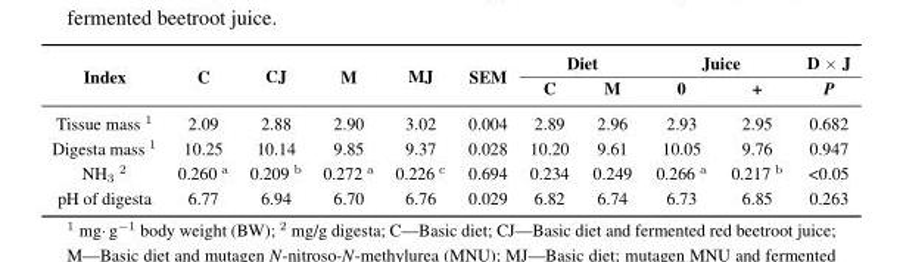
<table><thead><tr><td rowspan="2">Index</td><td rowspan="2">C</td><td rowspan="2">CJ</td><td rowspan="2">M</td><td rowspan="2">MJ</td><td rowspan="2">SEM</td><td colspan="2">Diet</td><td colspan="2">Juice</td><td rowspan="2">D ˆ J P</td></tr><tr><td>C</td><td>M</td><td>0</td><td>+</td></tr></thead><tbody><tr><td>Tissue mass <sup>1</sup></td><td>2.09</td><td>2.88</td><td>2.90</td><td>3.02</td><td>0.004</td><td>2.89</td><td>2.96</td><td>2.93</td><td>2.95</td><td>0.682</td></tr><tr><td>Digesta mass <sup>1</sup></td><td>10.25</td><td>10.14</td><td>9.85</td><td>9.37</td><td>0.028</td><td>10.20</td><td>9.61</td><td>10.05</td><td>9.76</td><td>0.947</td></tr><tr><td>NH<sub>3</sub> <sup>2</sup></td><td>0.260 <sup>a</sup></td><td>0.209 <sup>b</sup></td><td>0.272 <sup>a</sup></td><td>0.226 <sup>c</sup></td><td>0.694</td><td>0.234</td><td>0.249</td><td>0.266 <sup>a</sup></td><td>0.217 <sup>b</sup></td><td>&lt;0.05</td></tr><tr><td>pH of digesta</td><td>6.77</td><td>6.94</td><td>6.70</td><td>6.76</td><td>0.029</td><td>6.82</td><td>6.74</td><td>6.73</td><td>6.85</td><td>0.263</td></tr></tbody></table>